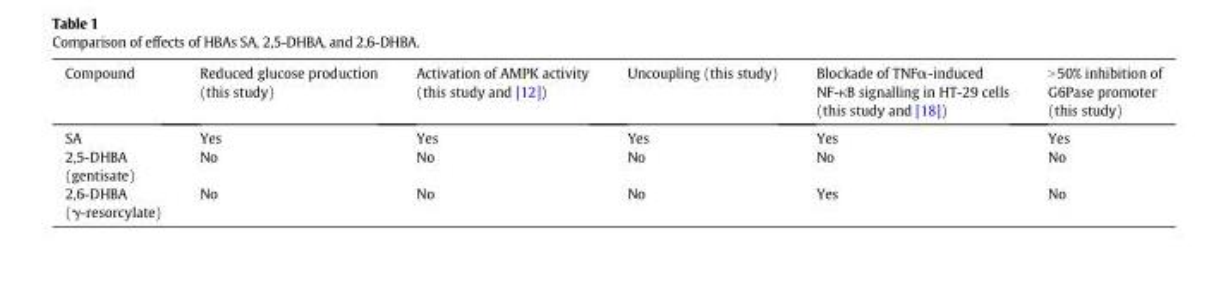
<table><thead><tr><td>Compound</td><td>Reduced glucose production (this study)</td><td>Activation of AMPK activity (this study and [12])</td><td>Uncoupling (this study)</td><td>Blockade of TNFα-induced NF-κB signalling in HT-29 cells (this study and [18])</td><td>&gt;50% inhibition of G6Pase promoter (this study)</td></tr></thead><tbody><tr><td>SA</td><td>Yes</td><td>Yes</td><td>Yes</td><td>Yes</td><td>Yes</td></tr><tr><td>2,5-DHBA (gentisate)</td><td>No</td><td>No</td><td>No</td><td>No</td><td>No</td></tr><tr><td>2,6-DHBA (γ-resorcylate)</td><td>No</td><td>No</td><td>No</td><td>Yes</td><td>No</td></tr></tbody></table>